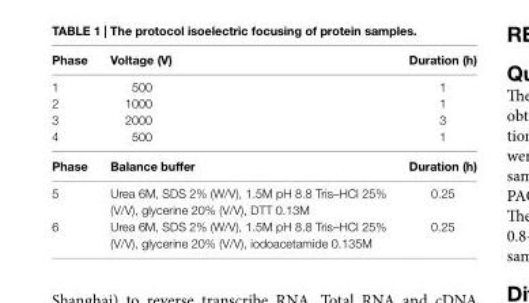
<table><thead><tr><td>Phase</td><td>Voltage (V)</td><td>Duration (h)</td></tr></thead><tbody><tr><td>1</td><td>500</td><td>1</td></tr><tr><td>2</td><td>1000</td><td>1</td></tr><tr><td>3</td><td>2000</td><td>3</td></tr><tr><td>4</td><td>500</td><td>1</td></tr><tr><td>Phase</td><td>Balance buffer</td><td>Duration (h)</td></tr><tr><td>5</td><td>Urea 6M, SDS 2% (W/V), 1.5M pH 8.8 Tris–HCl 25% (V/V), glycerine 20% (V/V), DTT 0.13M</td><td>0.25</td></tr><tr><td>6</td><td>Urea 6M, SDS 2% (W/V), 1.5M pH 8.8 Tris–HCl 25% (V/V), glycerine 20% (V/V), iodoacetamide 0.135M</td><td>0.25</td></tr></tbody></table>